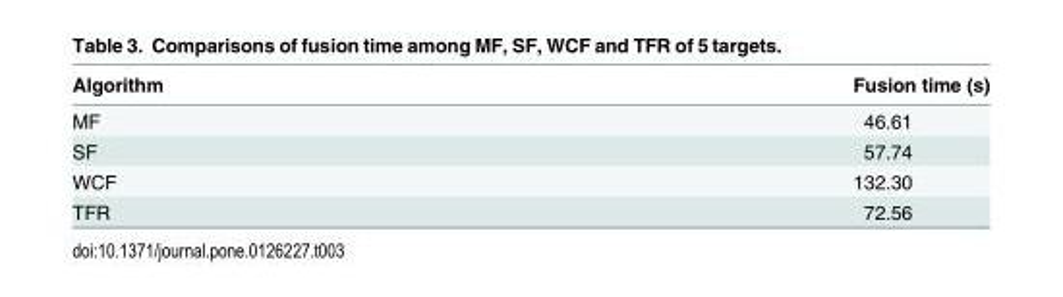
<table><thead><tr><td>Algorithm</td><td>Fusion time (s)</td></tr></thead><tbody><tr><td>MF</td><td>46.61</td></tr><tr><td>SF</td><td>57.74</td></tr><tr><td>WCF</td><td>132.30</td></tr><tr><td>TFR</td><td>72.56</td></tr></tbody></table>